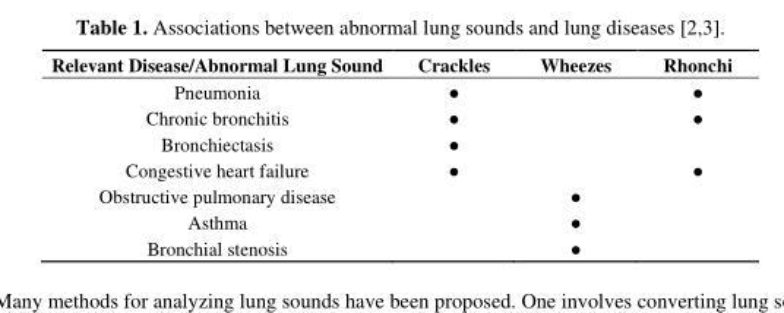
<table><thead><tr><td>Relevant Disease/Abnormal Lung Sound</td><td>Crackles</td><td>Wheezes</td><td>Rhonchi</td></tr></thead><tbody><tr><td>Pneumonia</td><td>●</td><td></td><td>●</td></tr><tr><td>Chronic bronchitis</td><td>●</td><td></td><td>●</td></tr><tr><td>Bronchiectasis</td><td>●</td><td></td><td></td></tr><tr><td>Congestive heart failure</td><td>●</td><td></td><td>●</td></tr><tr><td>Obstructive pulmonary disease</td><td></td><td>●</td><td></td></tr><tr><td>Asthma</td><td></td><td>●</td><td></td></tr><tr><td>Bronchial stenosis</td><td></td><td>●</td><td></td></tr></tbody></table>